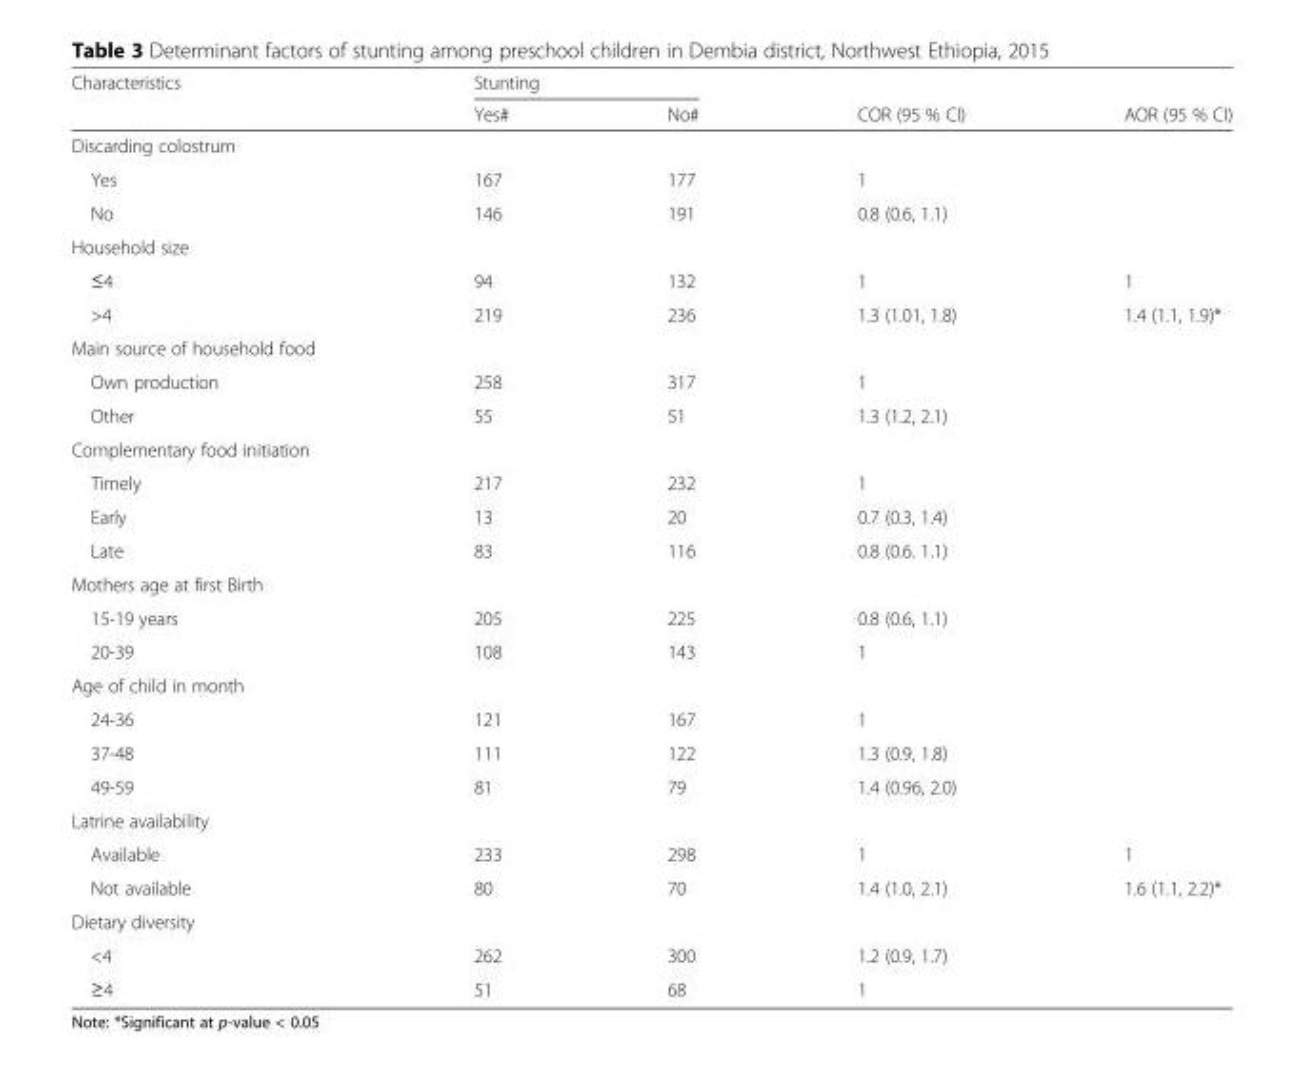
<table><thead><tr><td rowspan="2">Characteristics</td><td colspan="2">Stunting</td><td rowspan="2">COR (95 % CI)</td><td rowspan="2">AOR (95 % CI)</td></tr><tr><td>Yes#</td><td>No#</td></tr></thead><tbody><tr><td colspan="5">Discarding colostrum</td></tr><tr><td>Yes</td><td>167</td><td>177</td><td>1</td><td></td></tr><tr><td>No</td><td>146</td><td>191</td><td>0.8 (0.6, 1.1)</td><td></td></tr><tr><td colspan="5">Household size</td></tr><tr><td>≤4</td><td>94</td><td>132</td><td>1</td><td>1</td></tr><tr><td>&gt;4</td><td>219</td><td>236</td><td>1.3 (1.01, 1.8)</td><td>1.4 (1.1, 1.9)*</td></tr><tr><td colspan="5">Main source of household food</td></tr><tr><td>Own production</td><td>258</td><td>317</td><td>1</td><td></td></tr><tr><td>Other</td><td>55</td><td>51</td><td>1.3 (1.2, 2.1)</td><td></td></tr><tr><td colspan="5">Complementary food initiation</td></tr><tr><td>Timely</td><td>217</td><td>232</td><td>1</td><td></td></tr><tr><td>Early</td><td>13</td><td>20</td><td>0.7 (0.3, 1.4)</td><td></td></tr><tr><td>Late</td><td>83</td><td>116</td><td>0.8 (0.6. 1.1)</td><td></td></tr><tr><td colspan="5">Mothers age at first Birth</td></tr><tr><td>15-19 years</td><td>205</td><td>225</td><td>0.8 (0.6, 1.1)</td><td></td></tr><tr><td>20-39</td><td>108</td><td>143</td><td>1</td><td></td></tr><tr><td colspan="5">Age of child in month</td></tr><tr><td>24-36</td><td>121</td><td>167</td><td>1</td><td></td></tr><tr><td>37-48</td><td>111</td><td>122</td><td>1.3 (0.9, 1.8)</td><td></td></tr><tr><td>49-59</td><td>81</td><td>79</td><td>1.4 (0.96, 2.0)</td><td></td></tr><tr><td colspan="5">Latrine availability</td></tr><tr><td>Available</td><td>233</td><td>298</td><td>1</td><td>1</td></tr><tr><td>Not available</td><td>80</td><td>70</td><td>1.4 (1.0, 2.1)</td><td>1.6 (1.1, 2.2)*</td></tr><tr><td colspan="5">Dietary diversity</td></tr><tr><td>&lt;4</td><td>262</td><td>300</td><td>1.2 (0.9, 1.7)</td><td></td></tr><tr><td>≥4</td><td>51</td><td>68</td><td>1</td><td></td></tr></tbody></table>